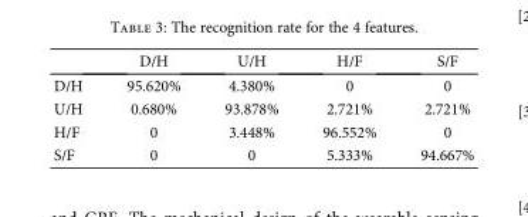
<table><thead><tr><td></td><td>D/H</td><td>U/H</td><td>H/F</td><td>S/F</td></tr></thead><tbody><tr><td>D/H</td><td>95.620%</td><td>4.380%</td><td>0</td><td>0</td></tr><tr><td>U/H</td><td>0.680%</td><td>93.878%</td><td>2.721%</td><td>2.721%</td></tr><tr><td>H/F</td><td>0</td><td>3.448%</td><td>96.552%</td><td>0</td></tr><tr><td>S/F</td><td>0</td><td>0</td><td>5.333%</td><td>94.667%</td></tr></tbody></table>